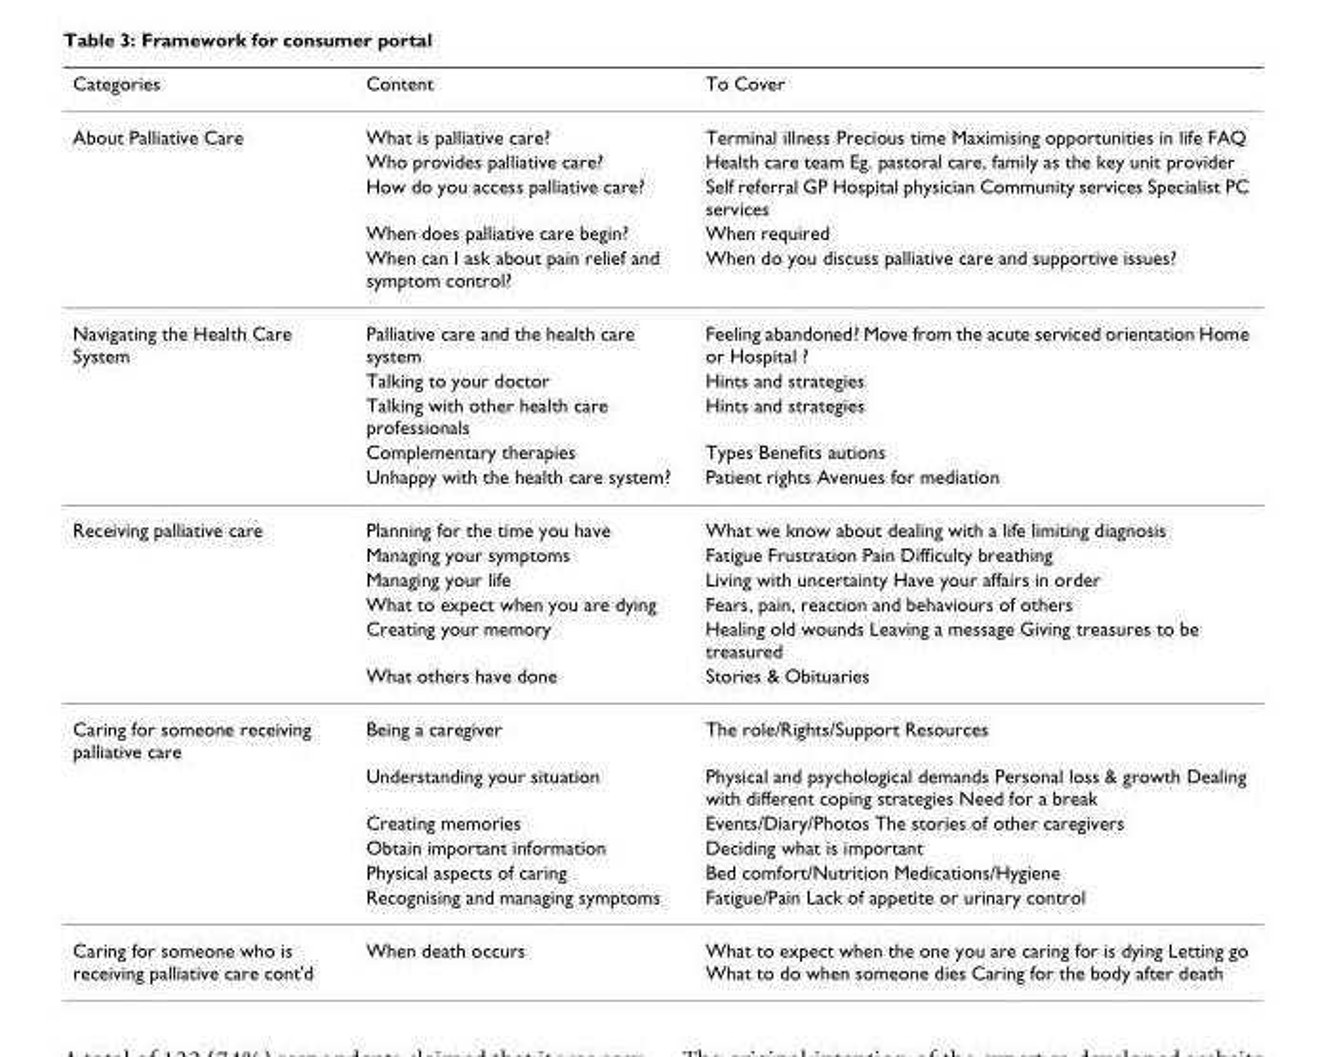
<table><thead><tr><td>Categories</td><td>Content</td><td>To Cover</td></tr></thead><tbody><tr><td rowspan="5">About Palliative Care</td><td>What is palliative care?</td><td>Terminal illness Precious time Maximising opportunities in life FAQ</td></tr><tr><td>Who provides palliative care?</td><td>Health care team Eg. pastoral care, family as the key unit provider</td></tr><tr><td>How do you access palliative care?</td><td>Self referral GP Hospital physician Community services Specialist PC services</td></tr><tr><td>When does palliative care begin?</td><td>When required</td></tr><tr><td>When can I ask about pain relief and symptom control?</td><td>When do you discuss palliative care and supportive issues?</td></tr><tr><td rowspan="5">Navigating the Health Care System</td><td>Palliative care and the health care system</td><td>Feeling abandoned? Move from the acute serviced orientation Home or Hospital ?</td></tr><tr><td>Talking to your doctor</td><td>Hints and strategies</td></tr><tr><td>Talking with other health care professionals</td><td>Hints and strategies</td></tr><tr><td>Complementary therapies</td><td>Types Benefits autions</td></tr><tr><td>Unhappy with the health care system?</td><td>Patient rights Avenues for mediation</td></tr><tr><td rowspan="6">Receiving palliative care</td><td>Planning for the time you have</td><td>What we know about dealing with a life limiting diagnosis</td></tr><tr><td>Managing your symptoms</td><td>Fatigue Frustration Pain Difficulty breathing</td></tr><tr><td>Managing your life</td><td>Living with uncertainty Have your affairs in order</td></tr><tr><td>What to expect when you are dying</td><td>Fears, pain, reaction and behaviours of others</td></tr><tr><td>Creating your memory</td><td>Healing old wounds Leaving a message Giving treasures to be treasured</td></tr><tr><td>What others have done</td><td>Stories &amp; Obituaries</td></tr><tr><td rowspan="6">Caring for someone receiving palliative care</td><td>Being a caregiver</td><td>The role/Rights/Support Resources</td></tr><tr><td>Understanding your situation</td><td>Physical and psychological demands Personal loss &amp; growth Dealing with different coping strategies Need for a break</td></tr><tr><td>Creating memories</td><td>Events/Diary/Photos The stories of other caregivers</td></tr><tr><td>Obtain important information</td><td>Deciding what is important</td></tr><tr><td>Physical aspects of caring</td><td>Bed comfort/Nutrition Medications/Hygiene</td></tr><tr><td>Recognising and managing symptoms</td><td>Fatigue/Pain Lack of appetite or urinary control</td></tr><tr><td>Caring for someone who is receiving palliative care cont&#x27;d</td><td>When death occurs</td><td>What to expect when the one you are caring for is dying Letting go What to do when someone dies Caring for the body after death</td></tr></tbody></table>